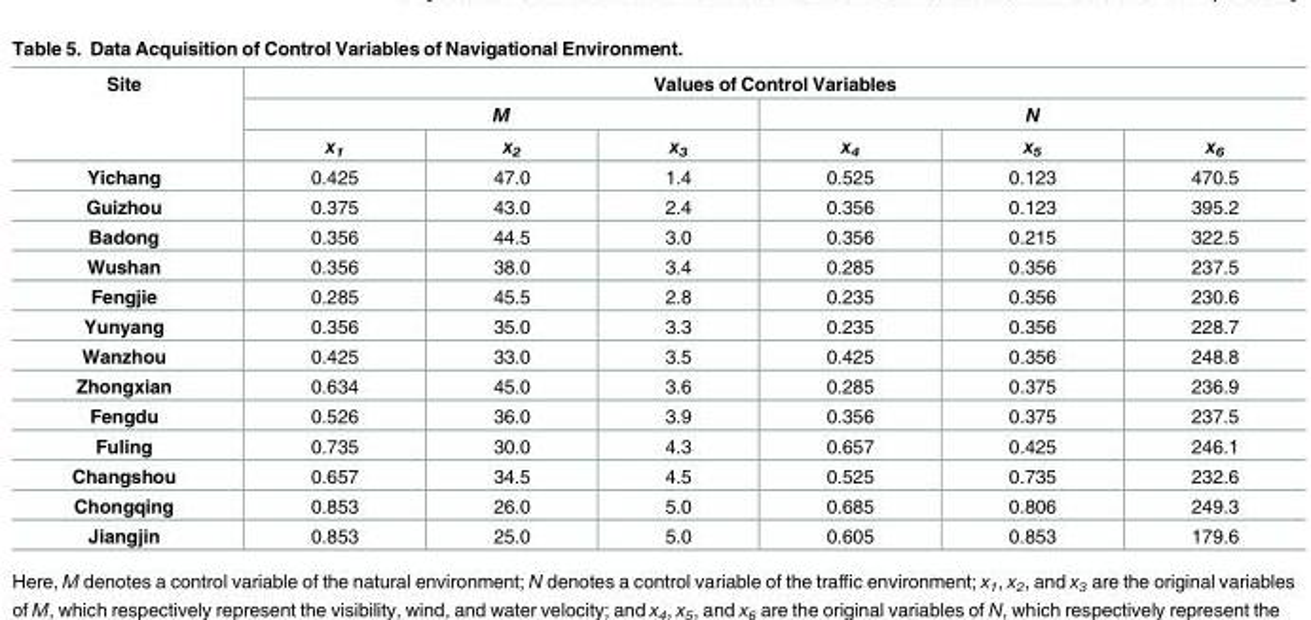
<table><thead><tr><td rowspan="3">Site</td><td colspan="6">Values of Control Variables</td></tr><tr><td colspan="3">M</td><td colspan="3">N</td></tr><tr><td>x<sub>1</sub></td><td>x<sub>2</sub></td><td>x<sub>3</sub></td><td>x<sub>4</sub></td><td>x<sub>5</sub></td><td>x<sub>6</sub></td></tr></thead><tbody><tr><td>Yichang</td><td>0.425</td><td>47.0</td><td>1.4</td><td>0.525</td><td>0.123</td><td>470.5</td></tr><tr><td>Guizhou</td><td>0.375</td><td>43.0</td><td>2.4</td><td>0.356</td><td>0.123</td><td>395.2</td></tr><tr><td>Badong</td><td>0.356</td><td>44.5</td><td>3.0</td><td>0.356</td><td>0.215</td><td>322.5</td></tr><tr><td>Wushan</td><td>0.356</td><td>38.0</td><td>3.4</td><td>0.285</td><td>0.356</td><td>237.5</td></tr><tr><td>Fengjie</td><td>0.285</td><td>45.5</td><td>2.8</td><td>0.235</td><td>0.356</td><td>230.6</td></tr><tr><td>Yunyang</td><td>0.356</td><td>35.0</td><td>3.3</td><td>0.235</td><td>0.356</td><td>228.7</td></tr><tr><td>Wanzhou</td><td>0.425</td><td>33.0</td><td>3.5</td><td>0.425</td><td>0.356</td><td>248.8</td></tr><tr><td>Zhongxian</td><td>0.634</td><td>45.0</td><td>3.6</td><td>0.285</td><td>0.375</td><td>236.9</td></tr><tr><td>Fengdu</td><td>0.526</td><td>36.0</td><td>3.9</td><td>0.356</td><td>0.375</td><td>237.5</td></tr><tr><td>Fuling</td><td>0.735</td><td>30.0</td><td>4.3</td><td>0.657</td><td>0.425</td><td>246.1</td></tr><tr><td>Changshou</td><td>0.657</td><td>34.5</td><td>4.5</td><td>0.525</td><td>0.735</td><td>232.6</td></tr><tr><td>Chongqing</td><td>0.853</td><td>26.0</td><td>5.0</td><td>0.685</td><td>0.806</td><td>249.3</td></tr><tr><td>Jiangjin</td><td>0.853</td><td>25.0</td><td>5.0</td><td>0.605</td><td>0.853</td><td>179.6</td></tr></tbody></table>